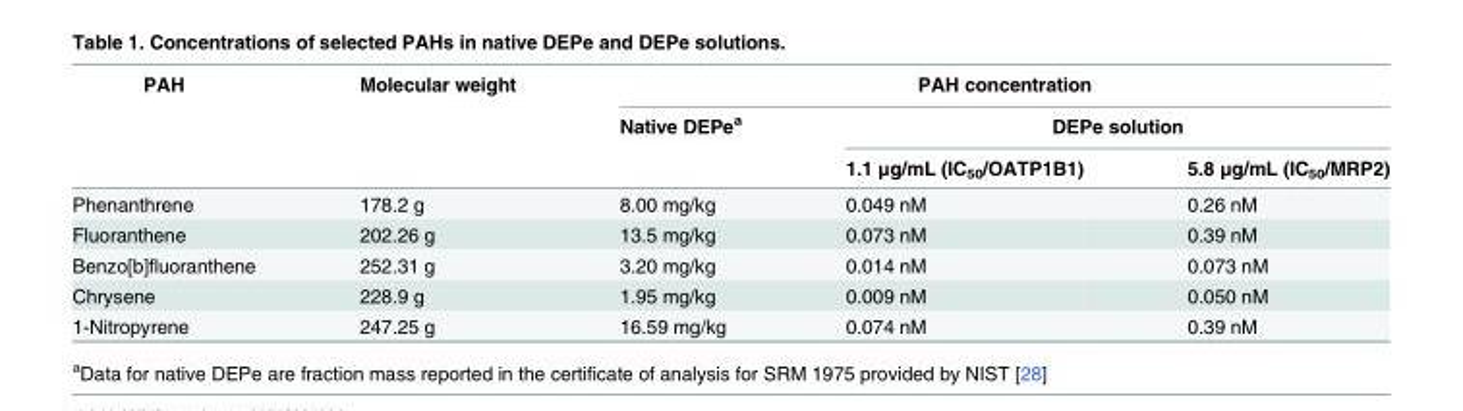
<table><thead><tr><td rowspan="3">PAH</td><td rowspan="3">Molecular weight</td><td colspan="3">PAH concentration</td></tr><tr><td rowspan="2">Native DEPe<sup>a</sup></td><td colspan="2">DEPe solution</td></tr><tr><td>1.1 μg/mL (IC<sub>50</sub>/OATP1B1)</td><td>5.8 μg/mL (IC<sub>50</sub>/MRP2)</td></tr></thead><tbody><tr><td>Phenanthrene</td><td>178.2 g</td><td>8.00 mg/kg</td><td>0.049 nM</td><td>0.26 nM</td></tr><tr><td>Fluoranthene</td><td>202.26 g</td><td>13.5 mg/kg</td><td>0.073 nM</td><td>0.39 nM</td></tr><tr><td>Benzo[b]fluoranthene</td><td>252.31 g</td><td>3.20 mg/kg</td><td>0.014 nM</td><td>0.073 nM</td></tr><tr><td>Chrysene</td><td>228.9 g</td><td>1.95 mg/kg</td><td>0.009 nM</td><td>0.050 nM</td></tr><tr><td>1-Nitropyrene</td><td>247.25 g</td><td>16.59 mg/kg</td><td>0.074 nM</td><td>0.39 nM</td></tr></tbody></table>